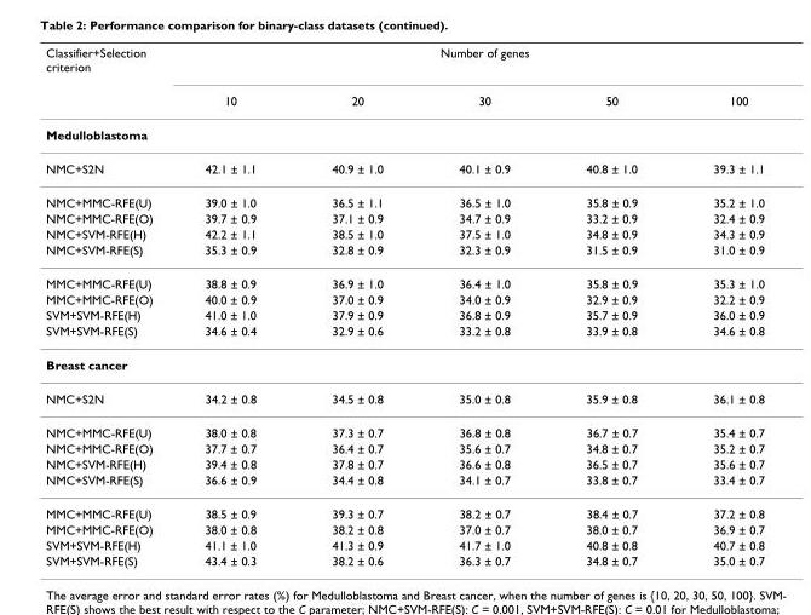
<table><thead><tr><td rowspan="2">Classifier+Selection criterion</td><td colspan="5">Number of genes</td></tr><tr><td>10</td><td>20</td><td>30</td><td>50</td><td>100</td></tr></thead><tbody><tr><td colspan="6">Medulloblastoma</td></tr><tr><td>NMC+S2N</td><td>42.1 ± 1.1</td><td>40.9 ± 1.0</td><td>40.1 ± 0.9</td><td>40.8 ± 1.0</td><td>39.3 ± 1.1</td></tr><tr><td>NMC+MMC-RFE(U)</td><td>39.0 ± 1.0</td><td>36.5 ± 1.1</td><td>36.5 ± 1.0</td><td>35.8 ± 0.9</td><td>35.2 ± 1.0</td></tr><tr><td>NMC+MMC-RFE(O)</td><td>39.7 ± 0.9</td><td>37.1 ± 0.9</td><td>34.7 ± 0.9</td><td>33.2 ± 0.9</td><td>32.4 ± 0.9</td></tr><tr><td>NMC+SVM-RFE(H)</td><td>42.2 ± 1.1</td><td>38.5 ± 1.0</td><td>37.5 ± 1.0</td><td>34.8 ± 0.9</td><td>34.3 ± 0.9</td></tr><tr><td>NMC+SVM-RFE(S)</td><td>35.3 ± 0.9</td><td>32.8 ± 0.9</td><td>32.3 ± 0.9</td><td>31.5 ± 0.9</td><td>31.0 ± 0.9</td></tr><tr><td>MMC+MMC-RFE(U)</td><td>38.8 ± 0.9</td><td>36.9 ± 1.0</td><td>36.4 ± 1.0</td><td>35.8 ± 0.9</td><td>35.3 ± 1.0</td></tr><tr><td>MMC+MMC-RFE(O)</td><td>40.0 ± 0.9</td><td>37.0 ± 0.9</td><td>34.0 ± 0.9</td><td>32.9 ± 0.9</td><td>32.2 ± 0.9</td></tr><tr><td>SVM+SVM-RFE(H)</td><td>41.0 ± 1.0</td><td>37.9 ± 0.9</td><td>36.8 ± 0.9</td><td>35.7 ± 0.9</td><td>36.0 ± 0.9</td></tr><tr><td>SVM+SVM-RFE(S)</td><td>34.6 ± 0.4</td><td>32.9 ± 0.6</td><td>33.2 ± 0.8</td><td>33.9 ± 0.8</td><td>34.6 ± 0.8</td></tr><tr><td colspan="6">Breast cancer</td></tr><tr><td>NMC+S2N</td><td>34.2 ± 0.8</td><td>34.5 ± 0.8</td><td>35.0 ± 0.8</td><td>35.9 ± 0.8</td><td>36.1 ± 0.8</td></tr><tr><td>NMC+MMC-RFE(U)</td><td>38.0 ± 0.8</td><td>37.3 ± 0.7</td><td>36.8 ± 0.8</td><td>36.7 ± 0.7</td><td>35.4 ± 0.7</td></tr><tr><td>NMC+MMC-RFE(O)</td><td>37.7 ± 0.7</td><td>36.4 ± 0.7</td><td>35.6 ± 0.7</td><td>34.8 ± 0.7</td><td>35.2 ± 0.7</td></tr><tr><td>NMC+SVM-RFE(H)</td><td>39.4 ± 0.8</td><td>37.8 ± 0.7</td><td>36.6 ± 0.8</td><td>36.5 ± 0.7</td><td>35.6 ± 0.7</td></tr><tr><td>NMC+SVM-RFE(S)</td><td>36.6 ± 0.9</td><td>34.4 ± 0.8</td><td>34.1 ± 0.7</td><td>33.8 ± 0.7</td><td>33.4 ± 0.7</td></tr><tr><td>MMC+MMC-RFE(U)</td><td>38.5 ± 0.9</td><td>39.3 ± 0.7</td><td>38.2 ± 0.7</td><td>38.4 ± 0.7</td><td>37.2 ± 0.8</td></tr><tr><td>MMC+MMC-RFE(O)</td><td>38.0 ± 0.8</td><td>38.2 ± 0.8</td><td>37.0 ± 0.7</td><td>38.0 ± 0.7</td><td>36.9 ± 0.7</td></tr><tr><td>SVM+SVM-RFE(H)</td><td>41.1 ± 1.0</td><td>41.3 ± 0.9</td><td>41.7 ± 1.0</td><td>40.8 ± 0.8</td><td>40.7 ± 0.8</td></tr><tr><td>SVM+SVM-RFE(S)</td><td>43.4 ± 0.3</td><td>38.2 ± 0.6</td><td>36.3 ± 0.7</td><td>34.8 ± 0.7</td><td>35.0 ± 0.7</td></tr></tbody></table>